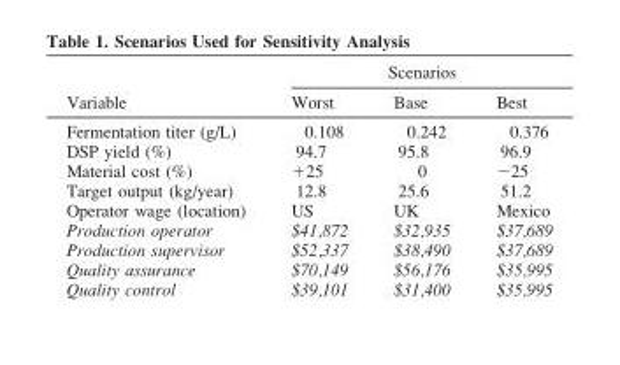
<table><thead><tr><td rowspan="2">Variable</td><td colspan="3">Scenarios</td></tr><tr><td>Worst</td><td>Base</td><td>Best</td></tr></thead><tbody><tr><td>Fermentation titer (g/L)</td><td>0.108</td><td>0.242</td><td>0.376</td></tr><tr><td>DSP yield (%)</td><td>94.7</td><td>95.8</td><td>96.9</td></tr><tr><td>Material cost (%)</td><td>+25</td><td>0</td><td>−25</td></tr><tr><td>Target output (kg/year)</td><td>12.8</td><td>25.6</td><td>51.2</td></tr><tr><td>Operator wage (location)</td><td>US</td><td>UK</td><td>Mexico</td></tr><tr><td>Production operator</td><td>$41,872</td><td>$32,935</td><td>$37,689</td></tr><tr><td>Production supervisor</td><td>$52,337</td><td>$38,490</td><td>$37,689</td></tr><tr><td>Quality assurance</td><td>$70,149</td><td>$56,176</td><td>$35,995</td></tr><tr><td>Quality control</td><td>$39,101</td><td>$31,400</td><td>$35,995</td></tr></tbody></table>